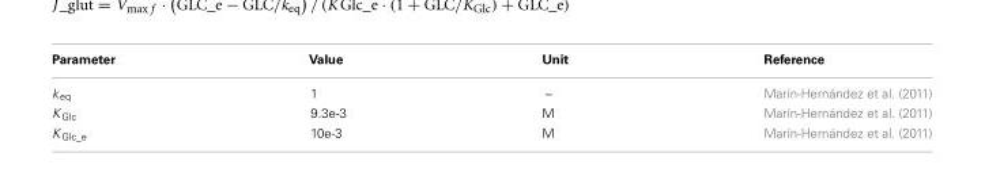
<table><thead><tr><td>Parameter</td><td>Value</td><td>Unit</td><td>Reference</td></tr></thead><tbody><tr><td>k<sub>eq</sub></td><td>1</td><td>–</td><td>Marín-Hernández et al. (2011)</td></tr><tr><td>K <sub>Glc</sub></td><td>9.3e-3</td><td>M</td><td>Marín-Hernández et al. (2011)</td></tr><tr><td>K <sub>Glc_e</sub></td><td>10e-3</td><td>M</td><td>Marín-Hernández et al. (2011)</td></tr></tbody></table>